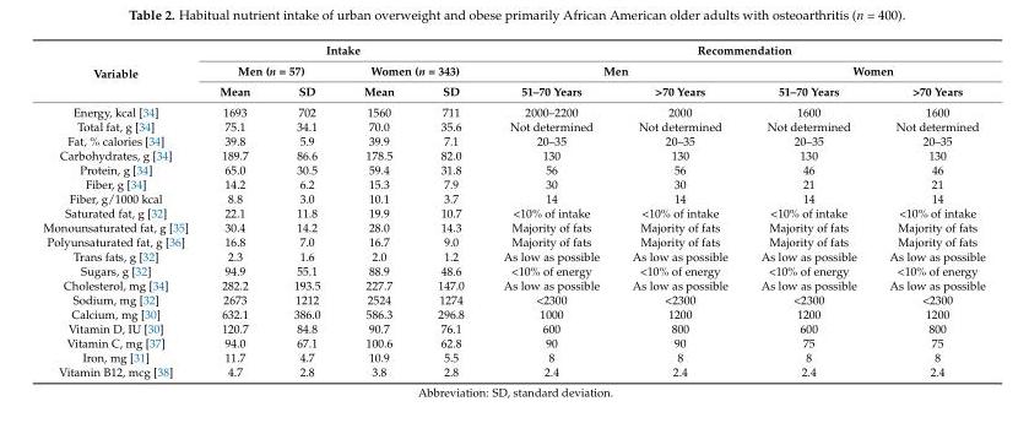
<table><thead><tr><td rowspan="3">Variable</td><td colspan="4">Intake</td><td colspan="4">Recommendation</td></tr><tr><td colspan="2">Men (n = 57)</td><td colspan="2">Women (n = 343)</td><td colspan="2">Men</td><td colspan="2">Women</td></tr><tr><td>Mean</td><td>SD</td><td>Mean</td><td>SD</td><td>51–70 Years</td><td>&gt;70 Years</td><td>51–70 Years</td><td>&gt;70 Years</td></tr></thead><tbody><tr><td>Energy, kcal [34]</td><td>1693</td><td>702</td><td>1560</td><td>711</td><td>2000–2200</td><td>2000</td><td>1600</td><td>1600</td></tr><tr><td>Total fat, g [34]</td><td>75.1</td><td>34.1</td><td>70.0</td><td>35.6</td><td>Not determined</td><td>Not determined</td><td>Not determined</td><td>Not determined</td></tr><tr><td>Fat, % calories [34]</td><td>39.8</td><td>5.9</td><td>39.9</td><td>7.1</td><td>20–35</td><td>20–35</td><td>20–35</td><td>20–35</td></tr><tr><td>Carbohydrates, g [34]</td><td>189.7</td><td>86.6</td><td>178.5</td><td>82.0</td><td>130</td><td>130</td><td>130</td><td>130</td></tr><tr><td>Protein, g [34]</td><td>65.0</td><td>30.5</td><td>59.4</td><td>31.8</td><td>56</td><td>56</td><td>46</td><td>46</td></tr><tr><td>Fiber, g [34]</td><td>14.2</td><td>6.2</td><td>15.3</td><td>7.9</td><td>30</td><td>30</td><td>21</td><td>21</td></tr><tr><td>Fiber, g/1000 kcal</td><td>8.8</td><td>3.0</td><td>10.1</td><td>3.7</td><td>14</td><td>14</td><td>14</td><td>14</td></tr><tr><td>Saturated fat, g [32]</td><td>22.1</td><td>11.8</td><td>19.9</td><td>10.7</td><td>&lt;10% of intake</td><td>&lt;10% of intake</td><td>&lt;10% of intake</td><td>&lt;10% of intake</td></tr><tr><td>Monounsaturated fat, g [35]</td><td>30.4</td><td>14.2</td><td>28.0</td><td>14.3</td><td>Majority of fats</td><td>Majority of fats</td><td>Majority of fats</td><td>Majority of fats</td></tr><tr><td>Polyunsaturated fat, g [36]</td><td>16.8</td><td>7.0</td><td>16.7</td><td>9.0</td><td>Majority of fats</td><td>Majority of fats</td><td>Majority of fats</td><td>Majority of fats</td></tr><tr><td>Trans fats, g [32]</td><td>2.3</td><td>1.6</td><td>2.0</td><td>1.2</td><td>As low as possible</td><td>As low as possible</td><td>As low as possible</td><td>As low as possible</td></tr><tr><td>Sugars, g [32]</td><td>94.9</td><td>55.1</td><td>88.9</td><td>48.6</td><td>&lt;10% of energy</td><td>&lt;10% of energy</td><td>&lt;10% of energy</td><td>&lt;10% of energy</td></tr><tr><td>Cholesterol, mg [34]</td><td>282.2</td><td>193.5</td><td>227.7</td><td>147.0</td><td>As low as possible</td><td>As low as possible</td><td>As low as possible</td><td>As low as possible</td></tr><tr><td>Sodium, mg [32]</td><td>2673</td><td>1212</td><td>2524</td><td>1274</td><td>&lt;2300</td><td>&lt;2300</td><td>&lt;2300</td><td>&lt;2300</td></tr><tr><td>Calcium, mg [30]</td><td>632.1</td><td>386.0</td><td>586.3</td><td>296.8</td><td>1000</td><td>1200</td><td>1200</td><td>1200</td></tr><tr><td>Vitamin D, IU [30]</td><td>120.7</td><td>84.8</td><td>90.7</td><td>76.1</td><td>600</td><td>800</td><td>600</td><td>800</td></tr><tr><td>Vitamin C, mg [37]</td><td>94.0</td><td>67.1</td><td>100.6</td><td>62.8</td><td>90</td><td>90</td><td>75</td><td>75</td></tr><tr><td>Iron, mg [31]</td><td>11.7</td><td>4.7</td><td>10.9</td><td>5.5</td><td>8</td><td>8</td><td>8</td><td>8</td></tr><tr><td>Vitamin B12, mcg [38]</td><td>4.7</td><td>2.8</td><td>3.8</td><td>2.8</td><td>2.4</td><td>2.4</td><td>2.4</td><td>2.4</td></tr></tbody></table>